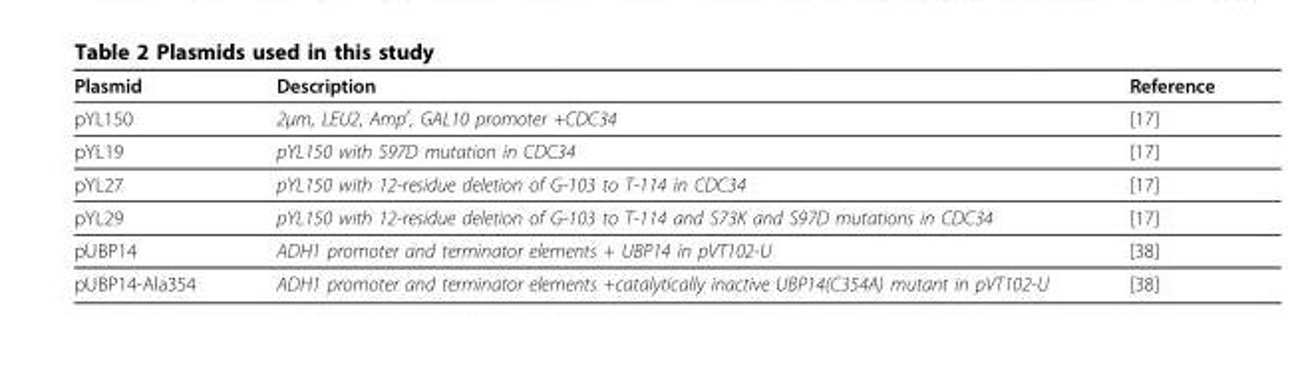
<table><thead><tr><td>Plasmid</td><td>Description</td><td>Reference</td></tr></thead><tbody><tr><td>pYL150</td><td>2μm, LEU2, Amp<sup>r</sup>, GAL10 promoter +CDC34</td><td>[17]</td></tr><tr><td>pYL19</td><td>pYL150 with S97D mutation in CDC34</td><td>[17]</td></tr><tr><td>pYL27</td><td>pYL150 with 12-residue deletion of G-103 to T-114 in CDC34</td><td>[17]</td></tr><tr><td>pYL29</td><td>pYL150 with 12-residue deletion of G-103 to T-114 and S73K and S97D mutations in CDC34</td><td>[17]</td></tr><tr><td>pUBP14</td><td>ADH1 promoter and terminator elements + UBP14 in pVT102-U</td><td>[38]</td></tr><tr><td>pUBP14-Ala354</td><td>ADH1 promoter and terminator elements +catalytically inactive UBP14(C354A) mutant in pVT102-U</td><td>[38]</td></tr></tbody></table>